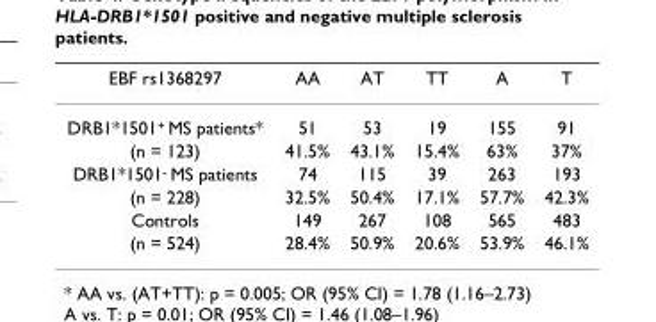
<table><thead><tr><td>EBF rs1368297</td><td>AA</td><td>AT</td><td>TT</td><td>A</td><td>T</td></tr></thead><tbody><tr><td>DRB1*1501<sup>+</sup> MS patients*</td><td>51</td><td>53</td><td>19</td><td>155</td><td>91</td></tr><tr><td>(n = 123)</td><td>41.5%</td><td>43.1%</td><td>15.4%</td><td>63%</td><td>37%</td></tr><tr><td>DRB1*1501<sup>-</sup> MS patients</td><td>74</td><td>115</td><td>39</td><td>263</td><td>193</td></tr><tr><td>(n = 228)</td><td>32.5%</td><td>50.4%</td><td>17.1%</td><td>57.7%</td><td>42.3%</td></tr><tr><td>Controls</td><td>149</td><td>267</td><td>108</td><td>565</td><td>483</td></tr><tr><td>(n = 524)</td><td>28.4%</td><td>50.9%</td><td>20.6%</td><td>53.9%</td><td>46.1%</td></tr></tbody></table>